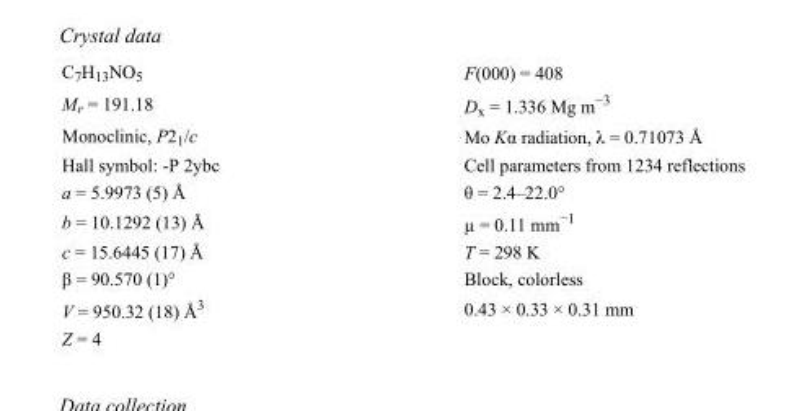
<table><tbody><tr><td>C<sub>7</sub>H<sub>13</sub>NO<sub>5</sub></td><td>F(000) = 408</td></tr><tr><td>M<sub>r</sub> = 191.18</td><td>D<sub>x</sub> = 1.336 Mg m<sup>−3</sup></td></tr><tr><td>Monoclinic, P2<sub>1</sub>/c</td><td>Mo Kα radiation, λ = 0.71073 Å</td></tr><tr><td>Hall symbol: -P 2ybc</td><td>Cell parameters from 1234 reflections</td></tr><tr><td>a = 5.9973 (5) Å</td><td>θ = 2.4–22.0°</td></tr><tr><td>b = 10.1292 (13) Å</td><td>µ = 0.11 mm<sup>−1</sup></td></tr><tr><td>c = 15.6445 (17) Å</td><td>T = 298 K</td></tr><tr><td>β = 90.570 (1)°</td><td>Block, colorless</td></tr><tr><td>V = 950.32 (18) Å<sup>3</sup></td><td>0.43 × 0.33 × 0.31 mm</td></tr><tr><td>Z = 4</td><td></td></tr></tbody></table>